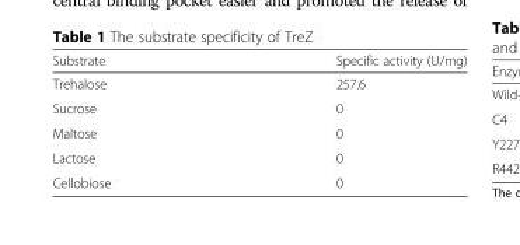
<table><thead><tr><td>Substrate</td><td>Specific activity (U/mg)</td></tr></thead><tbody><tr><td>Trehalose</td><td>257.6</td></tr><tr><td>Sucrose</td><td>0</td></tr><tr><td>Maltose</td><td>0</td></tr><tr><td>Lactose</td><td>0</td></tr><tr><td>Cellobiose</td><td>0</td></tr></tbody></table>